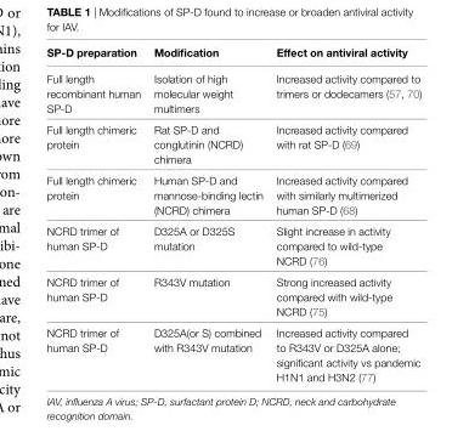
<table><thead><tr><td>SP-D preparation</td><td>Modification</td><td>effect on antiviral activity</td></tr></thead><tbody><tr><td>Full length recombinant human SP-D</td><td>Isolation of high molecular weight multimers</td><td>Increased activity compared to trimers or dodecamers (57, 70)</td></tr><tr><td>Full length chimeric protein</td><td>Rat SP-D and conglutinin (NCRD) chimera</td><td>Increased activity compared with rat SP-D (69)</td></tr><tr><td>Full length chimeric protein</td><td>Human SP-D and mannose-binding lectin (NCRD) chimera</td><td>Increased activity compared with similarly multimerized human SP-D (68)</td></tr><tr><td>NCRD trimer of human SP-D</td><td>D325A or D325S mutation</td><td>Slight increase in activity compared to wild-type NCRD (76)</td></tr><tr><td>NCRD trimer of human SP-D</td><td>R343V mutation</td><td>Strong increased activity compared with wild-type NCRD (75)</td></tr><tr><td>NCRD trimer of human SP-D</td><td>D325A(or S) combined with R343V mutation</td><td>Increased activity compared to R343V or D325A alone; significant activity vs pandemic H1N1 and H3N2 (77)</td></tr></tbody></table>